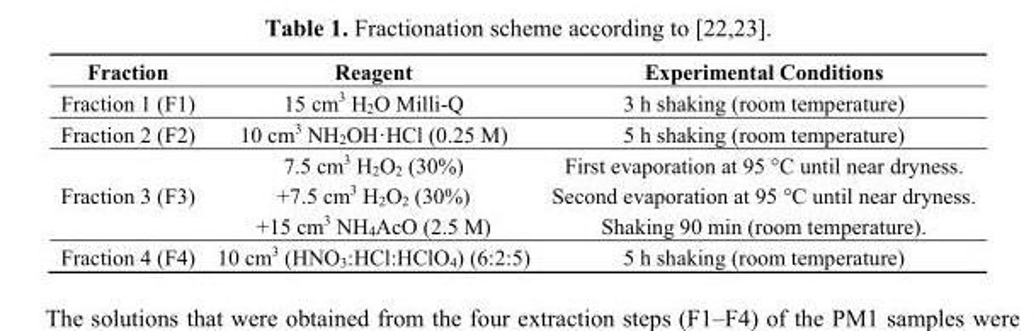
<table><thead><tr><td>Fraction</td><td>Reagent</td><td>Experimental Conditions</td></tr></thead><tbody><tr><td>Fraction 1 (F1)</td><td>15 cm<sup>3</sup> H<sub>2</sub>O Milli-Q</td><td>3 h shaking (room temperature)</td></tr><tr><td>Fraction 2 (F2)</td><td>10 cm<sup>3</sup> NH<sub>2</sub>OH·HCl (0.25 M)</td><td>5 h shaking (room temperature)</td></tr><tr><td>Fraction 3 (F3)</td><td>7.5 cm<sup>3</sup> H<sub>2</sub>O<sub>2</sub> (30%) +7.5 cm<sup>3</sup> H<sub>2</sub>O<sub>2</sub> (30%) +15 cm<sup>3</sup> NH<sub>4</sub>AcO (2.5 M)</td><td>First evaporation at 95 °C until near dryness. Second evaporation at 95 °C until near dryness. Shaking 90 min (room temperature).</td></tr><tr><td>Fraction 4 (F4)</td><td>10 cm<sup>3</sup> (HNO<sub>3</sub>:HCl:HClO<sub>4</sub>) (6:2:5)</td><td>5 h shaking (room temperature)</td></tr></tbody></table>